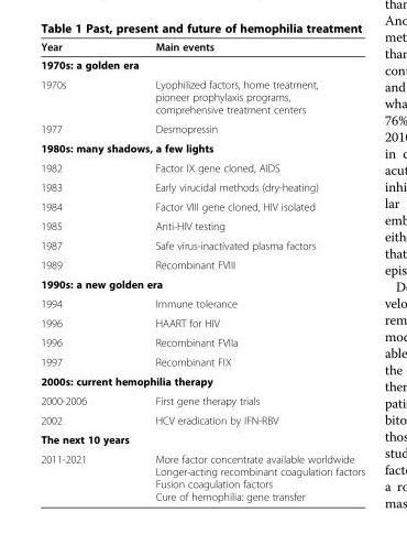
<table><thead><tr><td>Year</td><td>Main events</td></tr></thead><tbody><tr><td colspan="2">1970s: a golden era</td></tr><tr><td>1970s</td><td>Lyophilized factors, home treatment, pioneer prophylaxis programs, comprehensive treatment centers</td></tr><tr><td>1977</td><td>Desmopressin</td></tr><tr><td colspan="2">1980s: many shadows, a few lights</td></tr><tr><td>1982</td><td>Factor IX gene cloned, AIDS</td></tr><tr><td>1983</td><td>Early virucidal methods (dry-heating)</td></tr><tr><td>1984</td><td>Factor VIII gene cloned, HIV isolated</td></tr><tr><td>1985</td><td>Anti-HIV testing</td></tr><tr><td>1987</td><td>Safe virus-inactivated plasma factors</td></tr><tr><td>1989</td><td>Recombinant FVIII</td></tr><tr><td colspan="2">1990s: a new golden era</td></tr><tr><td>1994</td><td>Immune tolerance</td></tr><tr><td>1996</td><td>HAART for HIV</td></tr><tr><td>1996</td><td>Recombinant FVIIa</td></tr><tr><td>1997</td><td>Recombinant FIX</td></tr><tr><td colspan="2">2000s: current hemophilia therapy</td></tr><tr><td>2000-2006</td><td>First gene therapy trials</td></tr><tr><td>2002</td><td>HCV eradication by IFN-RBV</td></tr><tr><td colspan="2">The next 10 years</td></tr><tr><td>2011-2021</td><td>More factor concentrate available worldwide Longer-acting recombinant coagulation factors Fusion coagulation factors Cure of hemophilia: gene transfer</td></tr></tbody></table>